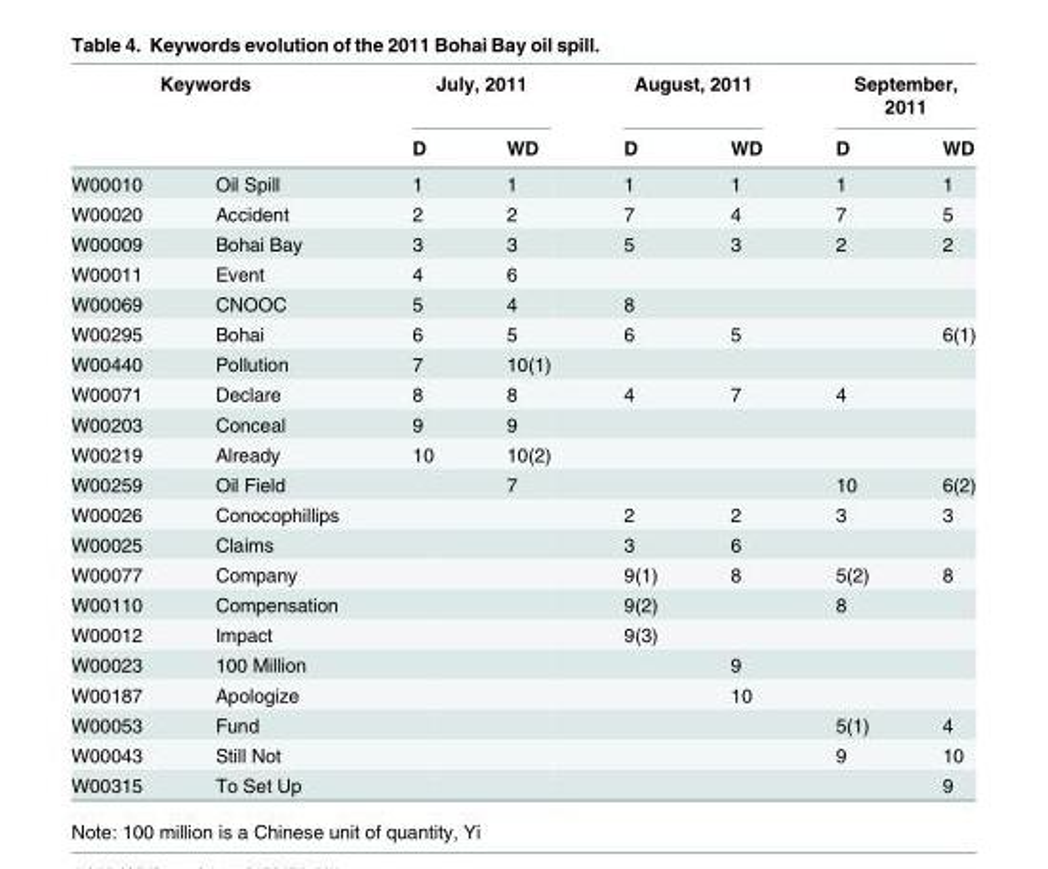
<table><thead><tr><td rowspan="2" colspan="2">Keywords</td><td colspan="2">July, 2011</td><td colspan="2">August, 2011</td><td colspan="2">September, 2011</td></tr><tr><td rowspan="2">D 1</td><td rowspan="2">WD 1</td><td rowspan="2">D 1</td><td rowspan="2">WD 1</td><td rowspan="2">D 1</td><td rowspan="2">WD 1</td></tr><tr><td>W00010</td><td>Oil Spill</td></tr></thead><tbody><tr><td>W00020</td><td>Accident</td><td>2</td><td>2</td><td>7</td><td>4</td><td>7</td><td>5</td></tr><tr><td>W00009</td><td>Bohai Bay</td><td>3</td><td>3</td><td>5</td><td>3</td><td>2</td><td>2</td></tr><tr><td>W00011</td><td>Event</td><td>4</td><td>6</td><td></td><td></td><td></td><td></td></tr><tr><td>W00069</td><td>CNOOC</td><td>5</td><td>4</td><td>8</td><td></td><td></td><td></td></tr><tr><td>W00295</td><td>Bohai</td><td>6</td><td>5</td><td>6</td><td>5</td><td></td><td>6(1)</td></tr><tr><td>W00440</td><td>Pollution</td><td>7</td><td>10(1)</td><td></td><td></td><td></td><td></td></tr><tr><td>W00071</td><td>Declare</td><td>8</td><td>8</td><td>4</td><td>7</td><td>4</td><td></td></tr><tr><td>W00203</td><td>Conceal</td><td>9</td><td>9</td><td></td><td></td><td></td><td></td></tr><tr><td>W00219</td><td>Already</td><td>10</td><td>10(2)</td><td></td><td></td><td></td><td></td></tr><tr><td>W00259</td><td>Oil Field</td><td></td><td>7</td><td></td><td></td><td>10</td><td>6(2)</td></tr><tr><td>W00026</td><td>Conocophillips</td><td></td><td></td><td>2</td><td>2</td><td>3</td><td>3</td></tr><tr><td>W00025</td><td>Claims</td><td></td><td></td><td>3</td><td>6</td><td></td><td></td></tr><tr><td>W00077</td><td>Company</td><td></td><td></td><td>9(1)</td><td>8</td><td>5(2)</td><td>8</td></tr><tr><td>W00110</td><td>Compensation</td><td></td><td></td><td>9(2)</td><td></td><td>8</td><td></td></tr><tr><td>W00012</td><td>Impact</td><td></td><td></td><td>9(3)</td><td></td><td></td><td></td></tr><tr><td>W00023</td><td>100 Million</td><td></td><td></td><td></td><td>9</td><td></td><td></td></tr><tr><td>W00187</td><td>Apologize</td><td></td><td></td><td></td><td>10</td><td></td><td></td></tr><tr><td>W00053</td><td>Fund</td><td></td><td></td><td></td><td></td><td>5(1)</td><td>4</td></tr><tr><td>W00043</td><td>Still Not</td><td></td><td></td><td></td><td></td><td>9</td><td>10</td></tr><tr><td>W00315</td><td>To Set Up</td><td></td><td></td><td></td><td></td><td></td><td>9</td></tr></tbody></table>